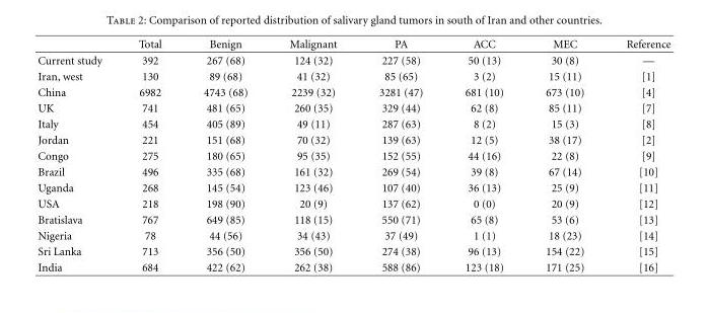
<table><thead><tr><td></td><td>Total</td><td>Benign</td><td>Malignant</td><td>PA</td><td>ACC</td><td>MEC</td><td>Reference</td></tr></thead><tbody><tr><td>Current study</td><td>392</td><td>267 (68)</td><td>124 (32)</td><td>227 (58)</td><td>50 (13)</td><td>30 (8)</td><td>—</td></tr><tr><td>Iran, west</td><td>130</td><td>89 (68)</td><td>41 (32)</td><td>85 (65)</td><td>3 (2)</td><td>15 (11)</td><td>[1]</td></tr><tr><td>China</td><td>6982</td><td>4743 (68)</td><td>2239 (32)</td><td>3281 (47)</td><td>681 (10)</td><td>673 (10)</td><td>[4]</td></tr><tr><td>UK</td><td>741</td><td>481 (65)</td><td>260 (35)</td><td>329 (44)</td><td>62 (8)</td><td>85 (11)</td><td>[7]</td></tr><tr><td>Italy</td><td>454</td><td>405 (89)</td><td>49 (11)</td><td>287 (63)</td><td>8 (2)</td><td>15 (3)</td><td>[8]</td></tr><tr><td>Jordan</td><td>221</td><td>151 (68)</td><td>70 (32)</td><td>139 (63)</td><td>12 (5)</td><td>38 (17)</td><td>[2]</td></tr><tr><td>Congo</td><td>275</td><td>180 (65)</td><td>95 (35)</td><td>152 (55)</td><td>44 (16)</td><td>22 (8)</td><td>[9]</td></tr><tr><td>Brazil</td><td>496</td><td>335 (68)</td><td>161 (32)</td><td>269 (54)</td><td>39 (8)</td><td>67 (14)</td><td>[10]</td></tr><tr><td>Uganda</td><td>268</td><td>145 (54)</td><td>123 (46)</td><td>107 (40)</td><td>36 (13)</td><td>25 (9)</td><td>[11]</td></tr><tr><td>USA</td><td>218</td><td>198 (90)</td><td>20 (9)</td><td>137 (62)</td><td>0 (0)</td><td>20 (9)</td><td>[12]</td></tr><tr><td>Bratislava</td><td>767</td><td>649 (85)</td><td>118 (15)</td><td>550 (71)</td><td>65 (8)</td><td>53 (6)</td><td>[13]</td></tr><tr><td>Nigeria</td><td>78</td><td>44 (56)</td><td>34 (43)</td><td>37 (49)</td><td>1 (1)</td><td>18 (23)</td><td>[14]</td></tr><tr><td>Sri Lanka</td><td>713</td><td>356 (50)</td><td>356 (50)</td><td>274 (38)</td><td>96 (13)</td><td>154 (22)</td><td>[15]</td></tr><tr><td>India</td><td>684</td><td>422 (62)</td><td>262 (38)</td><td>588 (86)</td><td>123 (18)</td><td>171 (25)</td><td>[16]</td></tr></tbody></table>